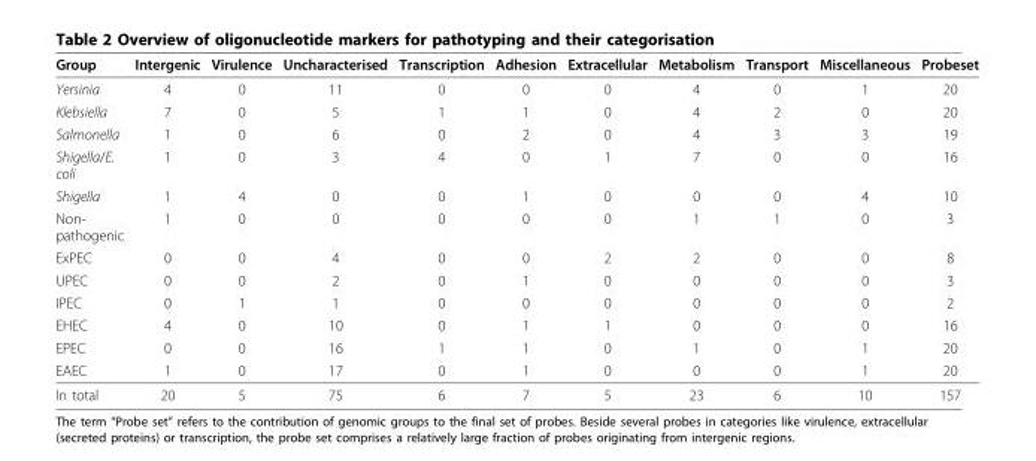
<table><thead><tr><td>Group</td><td>Intergenic</td><td>Virulence</td><td>Uncharacterised</td><td>Transcription</td><td>Adhesion</td><td>Extracellular</td><td>Metabolism</td><td>Transport</td><td>Miscellaneous</td><td>Probeset</td></tr></thead><tbody><tr><td>Yersinia</td><td>4</td><td>0</td><td>11</td><td>0</td><td>0</td><td>0</td><td>4</td><td>0</td><td>1</td><td>20</td></tr><tr><td>Klebsiella</td><td>7</td><td>0</td><td>5</td><td>1</td><td>1</td><td>0</td><td>4</td><td>2</td><td>0</td><td>20</td></tr><tr><td>Salmonella</td><td>1</td><td>0</td><td>6</td><td>0</td><td>2</td><td>0</td><td>4</td><td>3</td><td>3</td><td>19</td></tr><tr><td>Shigella/E. coli</td><td>1</td><td>0</td><td>3</td><td>4</td><td>0</td><td>1</td><td>7</td><td>0</td><td>0</td><td>16</td></tr><tr><td>Shigella</td><td>1</td><td>4</td><td>0</td><td>0</td><td>1</td><td>0</td><td>0</td><td>0</td><td>4</td><td>10</td></tr><tr><td>Non- pathogenic</td><td>1</td><td>0</td><td>0</td><td>0</td><td>0</td><td>0</td><td>1</td><td>1</td><td>0</td><td>3</td></tr><tr><td>ExPEC</td><td>0</td><td>0</td><td>4</td><td>0</td><td>0</td><td>2</td><td>2</td><td>0</td><td>0</td><td>8</td></tr><tr><td>UPEC</td><td>0</td><td>0</td><td>2</td><td>0</td><td>1</td><td>0</td><td>0</td><td>0</td><td>0</td><td>3</td></tr><tr><td>IPEC</td><td>0</td><td>1</td><td>1</td><td>0</td><td>0</td><td>0</td><td>0</td><td>0</td><td>0</td><td>2</td></tr><tr><td>EHEC</td><td>4</td><td>0</td><td>10</td><td>0</td><td>1</td><td>1</td><td>0</td><td>0</td><td>0</td><td>16</td></tr><tr><td>EPEC</td><td>0</td><td>0</td><td>16</td><td>1</td><td>1</td><td>0</td><td>1</td><td>0</td><td>1</td><td>20</td></tr><tr><td>EAEC</td><td>1</td><td>0</td><td>17</td><td>0</td><td>1</td><td>0</td><td>0</td><td>0</td><td>1</td><td>20</td></tr><tr><td>In total</td><td>20</td><td>5</td><td>75</td><td>6</td><td>7</td><td>5</td><td>23</td><td>6</td><td>10</td><td>157</td></tr></tbody></table>